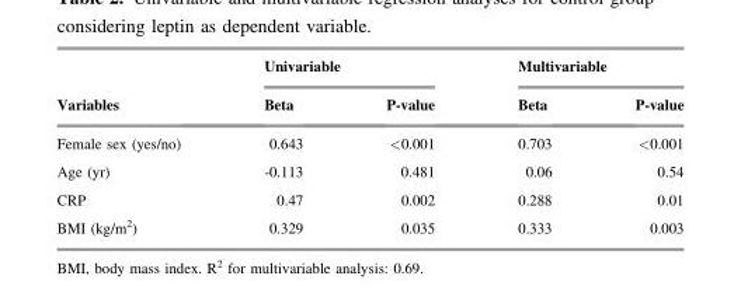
<table><thead><tr><td rowspan="2">Variables</td><td colspan="2">Univariable</td><td colspan="2">Multivariable</td></tr><tr><td>Beta</td><td>P-value</td><td>Beta</td><td>P-value</td></tr></thead><tbody><tr><td>Female sex (yes/no)</td><td>0.643</td><td>&lt;0.001</td><td>0.703</td><td>&lt;0.001</td></tr><tr><td>Age (yr)</td><td>-0.113</td><td>0.481</td><td>0.06</td><td>0.54</td></tr><tr><td>CRP</td><td>0.47</td><td>0.002</td><td>0.288</td><td>0.01</td></tr><tr><td>BMI (kg/m<sup>2</sup>)</td><td>0.329</td><td>0.035</td><td>0.333</td><td>0.003</td></tr></tbody></table>